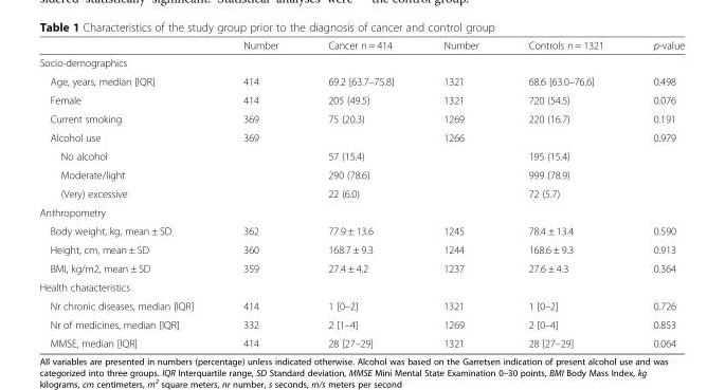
<table><thead><tr><td></td><td>Number</td><td>Cancer n = 414</td><td>Number</td><td>Controls n = 1321</td><td>p-value</td></tr></thead><tbody><tr><td colspan="6">Socio-demographics</td></tr><tr><td>Age, years, median [IQR]</td><td>414</td><td>69.2 [63.7–75.8]</td><td>1321</td><td>68.6 [63.0–76.6]</td><td>0.498</td></tr><tr><td>Female</td><td>414</td><td>205 (49.5)</td><td>1321</td><td>720 (54.5)</td><td>0.076</td></tr><tr><td>Current smoking</td><td>369</td><td>75 (20.3)</td><td>1269</td><td>220 (16.7)</td><td>0.191</td></tr><tr><td>Alcohol use</td><td>369</td><td></td><td>1266</td><td></td><td>0.979</td></tr><tr><td>No alcohol</td><td rowspan="3"></td><td>57 (15.4)</td><td rowspan="3"></td><td>195 (15.4)</td><td rowspan="3"></td></tr><tr><td>Moderate/light</td><td>290 (78.6)</td><td>999 (78.9)</td></tr><tr><td>(Very) excessive</td><td>22 (6.0)</td><td>72 (5.7)</td></tr><tr><td colspan="6">Anthropometry</td></tr><tr><td>Body weight, kg, mean ± SD</td><td>362</td><td>77.9 ± 13.6</td><td>1245</td><td>78.4 ± 13.4</td><td>0.590</td></tr><tr><td>Height, cm, mean ± SD</td><td>360</td><td>168.7 ± 9.3</td><td>1244</td><td>168.6 ± 9.3</td><td>0.913</td></tr><tr><td>BMI, kg/m2, mean ± SD</td><td>359</td><td>27.4 ± 4.2</td><td>1237</td><td>27.6 ± 4.3</td><td>0.364</td></tr><tr><td colspan="6">Health characteristics</td></tr><tr><td>Nr chronic diseases, median [IQR]</td><td>414</td><td>1 [0–2]</td><td>1321</td><td>1 [0–2]</td><td>0.726</td></tr><tr><td>Nr of medicines, median [IQR]</td><td>332</td><td>2 [1–4]</td><td>1269</td><td>2 [0–4]</td><td>0.853</td></tr><tr><td>MMSE, median [IQR]</td><td>414</td><td>28 [27–29]</td><td>1321</td><td>28 [27–29]</td><td>0.064</td></tr></tbody></table>